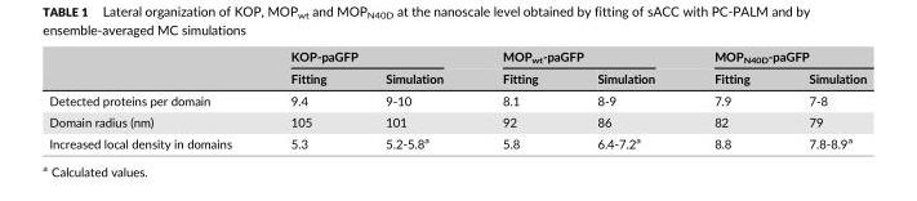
<table><thead><tr><td rowspan="2"></td><td colspan="2">KOP-paGFP</td><td colspan="2">MOP<sub>wt</sub>-paGFP</td><td colspan="2">MOP<sub>N40D</sub>-paGFP</td></tr><tr><td>Fitting</td><td>Simulation</td><td>Fitting</td><td>Simulation</td><td>Fitting</td><td>Simulation</td></tr></thead><tbody><tr><td>Detected proteins per domain</td><td>9.4</td><td>9-10</td><td>8.1</td><td>8-9</td><td>7.9</td><td>7-8</td></tr><tr><td>Domain radius (nm)</td><td>105</td><td>101</td><td>92</td><td>86</td><td>82</td><td>79</td></tr><tr><td>Increased local density in domains</td><td>5.3</td><td>5.2-5.8<sup>a</sup></td><td>5.8</td><td>6.4-7.2<sup>a</sup></td><td>8.8</td><td>7.8-8.9<sup>a</sup></td></tr></tbody></table>